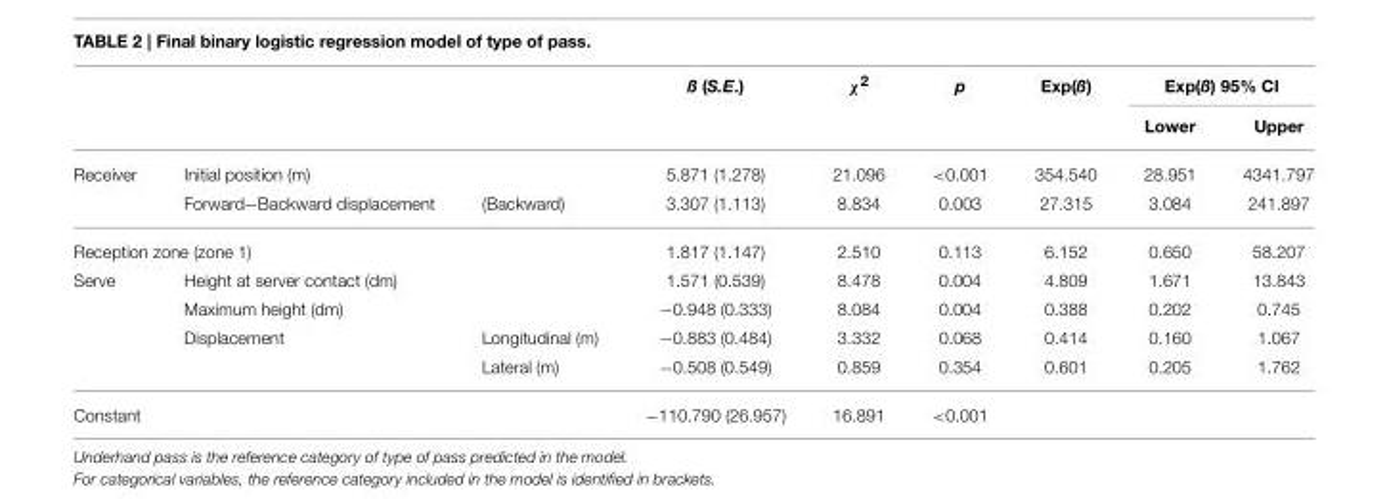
<table><thead><tr><td rowspan="2"></td><td rowspan="2"></td><td rowspan="2"></td><td rowspan="2">ß (S.E.)</td><td rowspan="2">χ<sup>2</sup></td><td rowspan="2">p</td><td rowspan="2">Exp(ß)</td><td colspan="2">Exp(ß) 95% CI</td></tr><tr><td>Lower</td><td>Upper</td></tr></thead><tbody><tr><td rowspan="2">Receiver</td><td>Initial position (m)</td><td></td><td>5.871 (1.278)</td><td>21.096</td><td>&lt;0.001</td><td>354.540</td><td>28.951</td><td>4341.797</td></tr><tr><td>Forward−Backward displacement</td><td>(Backward)</td><td>3.307 (1.113)</td><td>8.834</td><td>0.003</td><td>27.315</td><td>3.084</td><td>241.897</td></tr><tr><td colspan="2">Reception zone (zone 1)</td><td></td><td>1.817 (1.147)</td><td>2.510</td><td>0.113</td><td>6.152</td><td>0.650</td><td>58.207</td></tr><tr><td rowspan="4">Serve</td><td>Height at server contact (dm)</td><td></td><td>1.571 (0.539)</td><td>8.478</td><td>0.004</td><td>4.809</td><td>1.671</td><td>13.843</td></tr><tr><td>Maximum height (dm)</td><td></td><td>−0.948 (0.333)</td><td>8.084</td><td>0.004</td><td>0.388</td><td>0.202</td><td>0.745</td></tr><tr><td>Displacement</td><td>Longitudinal (m)</td><td>−0.883 (0.484)</td><td>3.332</td><td>0.068</td><td>0.414</td><td>0.160</td><td>1.067</td></tr><tr><td></td><td>Lateral (m)</td><td>−0.508 (0.549)</td><td>0.859</td><td>0.354</td><td>0.601</td><td>0.205</td><td>1.762</td></tr><tr><td colspan="2">Constant</td><td></td><td>−110.790 (26.957)</td><td>16.891</td><td>&lt;0.001</td><td></td><td></td><td></td></tr></tbody></table>